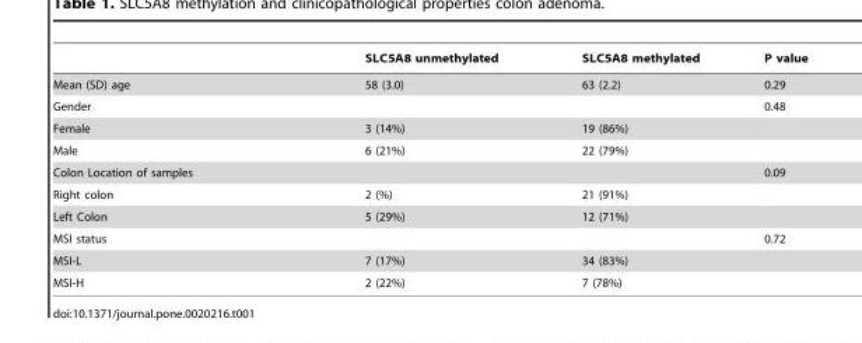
<table><thead><tr><td></td><td>SLC5A8 unmethylated</td><td>SLC5A8 methylated</td><td>P value</td></tr></thead><tbody><tr><td>Mean (SD) age</td><td>58 (3.0)</td><td>63 (2.2)</td><td>0.29</td></tr><tr><td>Gender</td><td></td><td></td><td>0.48</td></tr><tr><td>Female</td><td>3 (14%)</td><td>19 (86%)</td><td></td></tr><tr><td>Male</td><td>6 (21%)</td><td>22 (79%)</td><td></td></tr><tr><td>Colon Location of samples</td><td></td><td></td><td>0.09</td></tr><tr><td>Right colon</td><td>2 (%)</td><td>21 (91%)</td><td></td></tr><tr><td>Left Colon</td><td>5 (29%)</td><td>12 (71%)</td><td></td></tr><tr><td>MSI status</td><td></td><td></td><td>0.72</td></tr><tr><td>MSI-L</td><td>7 (17%)</td><td>34 (83%)</td><td></td></tr><tr><td>MSI-H</td><td>2 (22%)</td><td>7 (78%)</td><td></td></tr></tbody></table>